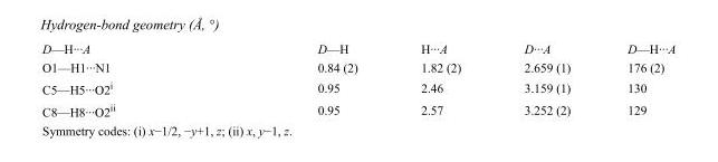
<table><tbody><tr><td>D—H···A</td><td>D—H</td><td>H···A</td><td>D···A</td><td>D—H···A</td></tr><tr><td>O1—H1···N1</td><td>0.84 (2)</td><td>1.82 (2)</td><td>2.659 (1)</td><td>176 (2)</td></tr><tr><td>C5—H5···O2<sup>i</sup></td><td>0.95</td><td>2.46</td><td>3.159 (1)</td><td>130</td></tr><tr><td>C8—H8···O2<sup>ii</sup></td><td>0.95</td><td>2.57</td><td>3.252 (2)</td><td>129</td></tr></tbody></table>